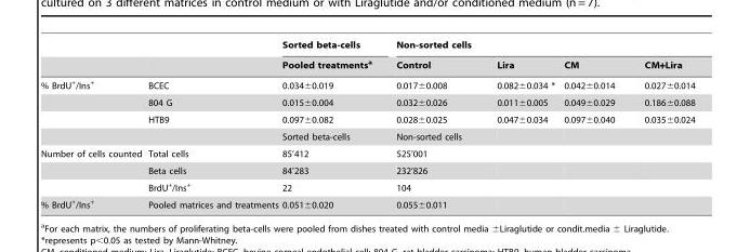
<table><thead><tr><td rowspan="2"></td><td rowspan="2"></td><td rowspan="2">Sorted beta-cells Pooled treatmentsa</td><td colspan="4">Non-sorted cells</td></tr><tr><td>Control</td><td>Lira</td><td>CM</td><td>CM+Lira</td></tr></thead><tbody><tr><td rowspan="4">% BrdU<sup>+</sup>/Ins<sup>+</sup></td><td>BCEC</td><td>0.034±0.019</td><td>0.017±0.008</td><td>0.082±0.034 *</td><td>0.042±0.014</td><td>0.027±0.014</td></tr><tr><td>804 G</td><td>0.015±0.004</td><td>0.032±0.026</td><td>0.011±0.005</td><td>0.049±0.029</td><td>0.186±0.088</td></tr><tr><td>HTB9</td><td>0.097±0.082</td><td>0.028±0.025</td><td>0.047±0.034</td><td>0.097±0.040</td><td>0.035±0.024</td></tr><tr><td></td><td>Sorted beta-cells</td><td>Non-sorted cells</td><td></td><td></td><td></td></tr><tr><td rowspan="3">Number of cells counted</td><td>Total cells</td><td>85’412</td><td>525’001</td><td></td><td></td><td></td></tr><tr><td>Beta cells</td><td>84’283</td><td>232’826</td><td></td><td></td><td></td></tr><tr><td>BrdU<sup>+</sup>/Ins<sup>+</sup></td><td>22</td><td>104</td><td></td><td></td><td></td></tr><tr><td>% BrdU<sup>+</sup>/Ins<sup>+</sup></td><td>Pooled matrices and treatments</td><td>0.051±0.020</td><td>0.055±0.011</td><td></td><td></td><td></td></tr></tbody></table>